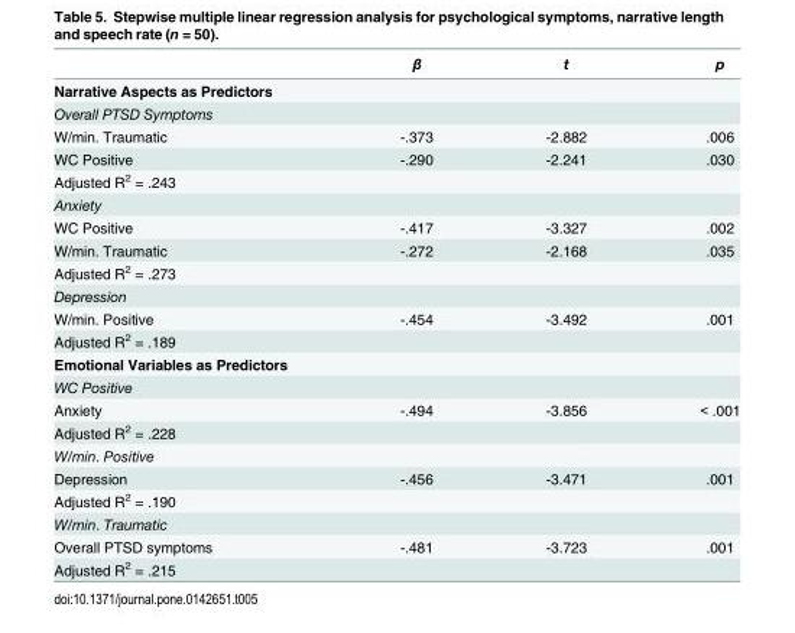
<table><thead><tr><td></td><td>β</td><td>t</td><td>p</td></tr></thead><tbody><tr><td colspan="4">Narrative Aspects as Predictors</td></tr><tr><td colspan="4">Overall PTSD Symptoms</td></tr><tr><td>W/min. Traumatic</td><td>-.373</td><td>-2.882</td><td>.006</td></tr><tr><td>WC Positive</td><td>-.290</td><td>-2.241</td><td>.030</td></tr><tr><td colspan="4">Adjusted R<sup>2</sup> = .243</td></tr><tr><td colspan="4">Anxiety</td></tr><tr><td>WC Positive</td><td>-.417</td><td>-3.327</td><td>.002</td></tr><tr><td>W/min. Traumatic</td><td>-.272</td><td>-2.168</td><td>.035</td></tr><tr><td colspan="4">Adjusted R<sup>2</sup> = .273</td></tr><tr><td colspan="4">Depression</td></tr><tr><td>W/min. Positive</td><td>-.454</td><td>-3.492</td><td>.001</td></tr><tr><td colspan="4">Adjusted R<sup>2</sup> = .189</td></tr><tr><td colspan="4">Emotional Variables as Predictors</td></tr><tr><td colspan="4">WC Positive</td></tr><tr><td>Anxiety</td><td>-.494</td><td>-3.856</td><td>&lt; .001</td></tr><tr><td colspan="4">Adjusted R<sup>2</sup> = .228</td></tr><tr><td colspan="4">W/min. Positive</td></tr><tr><td>Depression</td><td>-.456</td><td>-3.471</td><td>.001</td></tr><tr><td colspan="4">Adjusted R<sup>2</sup> = .190</td></tr><tr><td colspan="4">W/min. Traumatic</td></tr><tr><td>Overall PTSD symptoms</td><td>-.481</td><td>-3.723</td><td>.001</td></tr><tr><td>Adjusted R<sup>2</sup> = .215</td><td></td><td></td><td></td></tr></tbody></table>